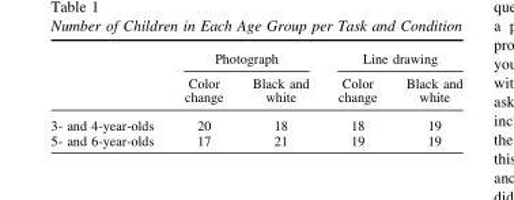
<table><thead><tr><td rowspan="2"></td><td colspan="2">Photograph</td><td colspan="2">Line drawing</td></tr><tr><td>Color change</td><td>Black and white</td><td>Color change</td><td>Black and white</td></tr></thead><tbody><tr><td>3- and 4-year-olds</td><td>20</td><td>18</td><td>18</td><td>19</td></tr><tr><td>5- and 6-year-olds</td><td>17</td><td>21</td><td>19</td><td>19</td></tr></tbody></table>